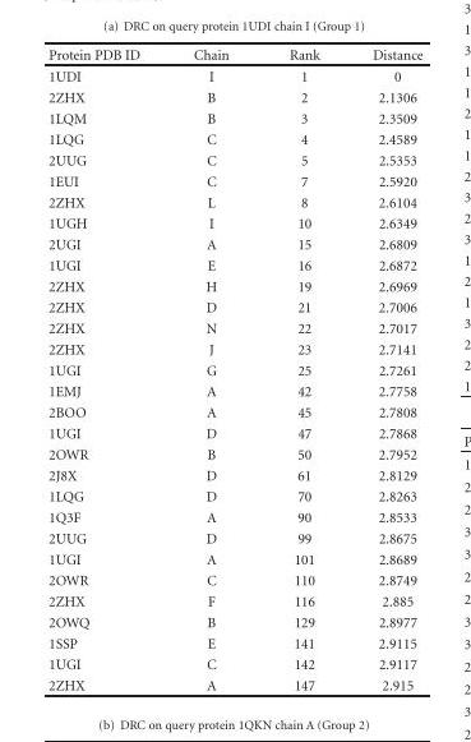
<table><thead><tr><td>Protein PDB ID</td><td>Chain</td><td>Rank</td><td>Distance</td></tr></thead><tbody><tr><td>1UDI</td><td>I</td><td>1</td><td>0</td></tr><tr><td>2ZHX</td><td>B</td><td>2</td><td>2.1306</td></tr><tr><td>1LQM</td><td>B</td><td>3</td><td>2.3509</td></tr><tr><td>1LQG</td><td>C</td><td>4</td><td>2.4589</td></tr><tr><td>2UUG</td><td>C</td><td>5</td><td>2.5353</td></tr><tr><td>1EUI</td><td>C</td><td>7</td><td>2.5920</td></tr><tr><td>2ZHX</td><td>L</td><td>8</td><td>2.6104</td></tr><tr><td>1UGH</td><td>I</td><td>10</td><td>2.6349</td></tr><tr><td>2UGI</td><td>A</td><td>15</td><td>2.6809</td></tr><tr><td>1UGI</td><td>E</td><td>16</td><td>2.6872</td></tr><tr><td>2ZHX</td><td>H</td><td>19</td><td>2.6969</td></tr><tr><td>2ZHX</td><td>D</td><td>21</td><td>2.7006</td></tr><tr><td>2ZHX</td><td>N</td><td>22</td><td>2.7017</td></tr><tr><td>2ZHX</td><td>J</td><td>23</td><td>2.7141</td></tr><tr><td>1UGI</td><td>G</td><td>25</td><td>2.7261</td></tr><tr><td>1EMJ</td><td>A</td><td>42</td><td>2.7758</td></tr><tr><td>2BOO</td><td>A</td><td>45</td><td>2.7808</td></tr><tr><td>1UGI</td><td>D</td><td>47</td><td>2.7868</td></tr><tr><td>2OWR</td><td>B</td><td>50</td><td>2.7952</td></tr><tr><td>2J8X</td><td>D</td><td>61</td><td>2.8129</td></tr><tr><td>1LQG</td><td>D</td><td>70</td><td>2.8263</td></tr><tr><td>1Q3F</td><td>A</td><td>90</td><td>2.8533</td></tr><tr><td>2UUG</td><td>D</td><td>99</td><td>2.8675</td></tr><tr><td>1UGI</td><td>A</td><td>101</td><td>2.8689</td></tr><tr><td>2OWR</td><td>C</td><td>110</td><td>2.8749</td></tr><tr><td>2ZHX</td><td>F</td><td>116</td><td>2.885</td></tr><tr><td>2OWQ</td><td>B</td><td>129</td><td>2.8977</td></tr><tr><td>1SSP</td><td>E</td><td>141</td><td>2.9115</td></tr><tr><td>1UGI</td><td>C</td><td>142</td><td>2.9117</td></tr><tr><td>2ZHX</td><td>A</td><td>147</td><td>2.915</td></tr></tbody></table>